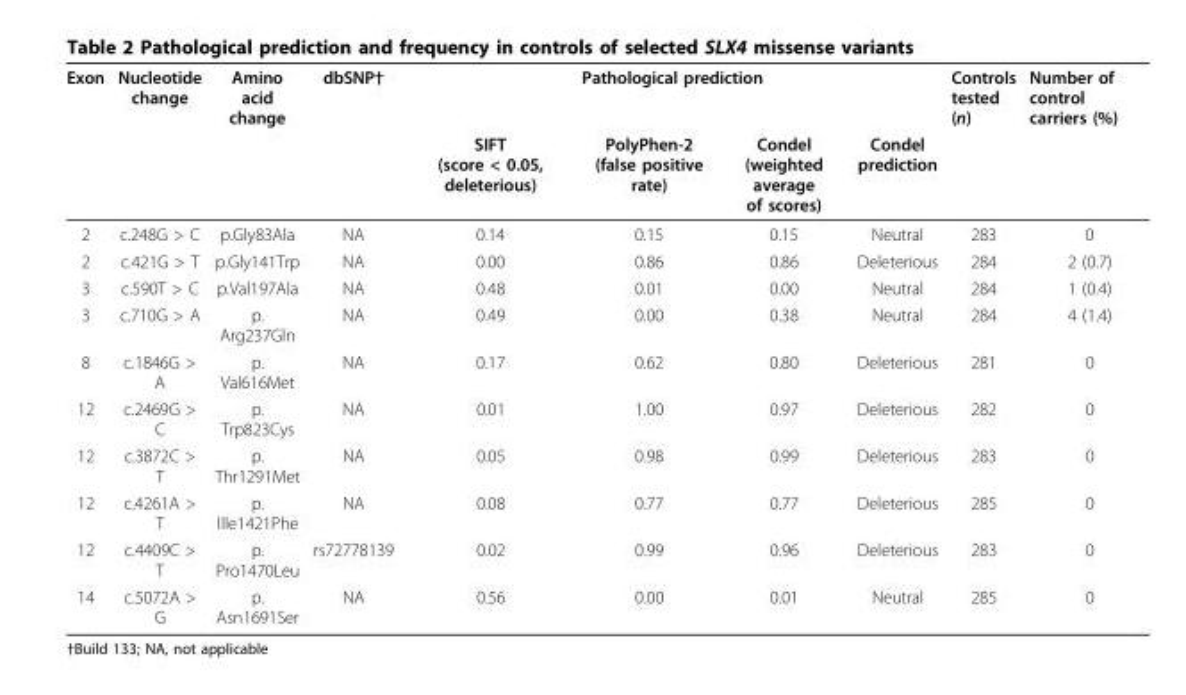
<table><thead><tr><td rowspan="2">Exon</td><td rowspan="2">Nucleotide change</td><td rowspan="2">Amino acid change</td><td rowspan="2">dbSNP†</td><td colspan="4">Pathological prediction</td><td rowspan="2">Controls tested (n)</td><td rowspan="2">Number of control carriers (%)</td></tr><tr><td>SIFT (score &lt; 0.05, deleterious)</td><td>PolyPhen-2 (false positive rate)</td><td>Condel (weighted average of scores)</td><td>Condel prediction</td></tr></thead><tbody><tr><td>2</td><td>c.248G &gt; C</td><td>p.Gly83Ala</td><td>NA</td><td>0.14</td><td>0.15</td><td>0.15</td><td>Neutral</td><td>283</td><td>0</td></tr><tr><td>2</td><td>c.421G &gt; T</td><td>p.Gly141Trp</td><td>NA</td><td>0.00</td><td>0.86</td><td>0.86</td><td>Deleterious</td><td>284</td><td>2 (0.7)</td></tr><tr><td>3</td><td>c.590T &gt; C</td><td>p.Val197Ala</td><td>NA</td><td>0.48</td><td>0.01</td><td>0.00</td><td>Neutral</td><td>284</td><td>1 (0.4)</td></tr><tr><td>3</td><td>c.710G &gt; A</td><td>p. Arg237Gln</td><td>NA</td><td>0.49</td><td>0.00</td><td>0.38</td><td>Neutral</td><td>284</td><td>4 (1.4)</td></tr><tr><td>8</td><td>c.1846G &gt; A</td><td>p. Val616Met</td><td>NA</td><td>0.17</td><td>0.62</td><td>0.80</td><td>Deleterious</td><td>281</td><td>0</td></tr><tr><td>12</td><td>c.2469G &gt; C</td><td>p. Trp823Cys</td><td>NA</td><td>0.01</td><td>1.00</td><td>0.97</td><td>Deleterious</td><td>282</td><td>0</td></tr><tr><td>12</td><td>c.3872C &gt; T</td><td>p. Thr1291Met</td><td>NA</td><td>0.05</td><td>0.98</td><td>0.99</td><td>Deleterious</td><td>283</td><td>0</td></tr><tr><td>12</td><td>c.4261A &gt; T</td><td>p. Ille1421Phe</td><td>NA</td><td>0.08</td><td>0.77</td><td>0.77</td><td>Deleterious</td><td>285</td><td>0</td></tr><tr><td>12</td><td>c.4409C &gt; T</td><td>p. Pro1470Leu</td><td>rs72778139</td><td>0.02</td><td>0.99</td><td>0.96</td><td>Deleterious</td><td>283</td><td>0</td></tr><tr><td>14</td><td>c.5072A &gt; G</td><td>p. Asn1691Ser</td><td>NA</td><td>0.56</td><td>0.00</td><td>0.01</td><td>Neutral</td><td>285</td><td>0</td></tr></tbody></table>